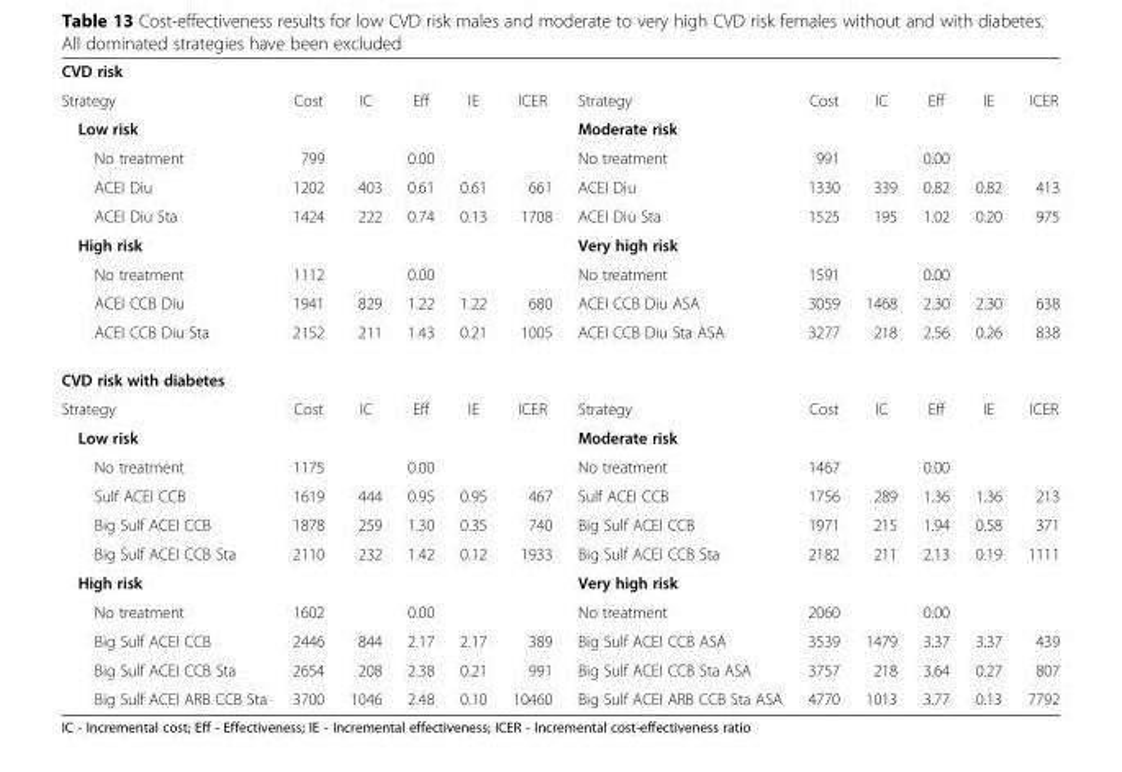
<table><tbody><tr><td colspan="12">CVD risk</td></tr><tr><td>Strategy</td><td>Cost</td><td>IC</td><td>Eff</td><td>IE</td><td>ICER</td><td>Strategy</td><td>Cost</td><td>IC</td><td>Eff</td><td>IE</td><td>ICER</td></tr><tr><td>Low risk</td><td></td><td></td><td></td><td></td><td></td><td>Moderate risk</td><td></td><td></td><td></td><td></td><td></td></tr><tr><td>No treatment</td><td>799</td><td></td><td>0.00</td><td></td><td></td><td>No treatment</td><td>991</td><td></td><td>0.00</td><td></td><td></td></tr><tr><td>ACEI Diu</td><td>1202</td><td>403</td><td>0.61</td><td>0.61</td><td>661</td><td>ACEI Diu</td><td>1330</td><td>339</td><td>0.82</td><td>0.82</td><td>413</td></tr><tr><td>ACEI Diu Sta</td><td>1424</td><td>222</td><td>0.74</td><td>0.13</td><td>1708</td><td>ACEI Diu Sta</td><td>1525</td><td>195</td><td>1.02</td><td>0.20</td><td>975</td></tr><tr><td>High risk</td><td></td><td></td><td></td><td></td><td></td><td>Very high risk</td><td></td><td></td><td></td><td></td><td></td></tr><tr><td>No treatment</td><td>1112</td><td></td><td>0.00</td><td></td><td></td><td>No treatment</td><td>1591</td><td></td><td>0.00</td><td></td><td></td></tr><tr><td>ACEI CCB Diu</td><td>1941</td><td>829</td><td>1.22</td><td>1.22</td><td>680</td><td>ACEI CCB Diu ASA</td><td>3059</td><td>1468</td><td>2.30</td><td>2.30</td><td>638</td></tr><tr><td>ACEI CCB Diu Sta</td><td>2152</td><td>211</td><td>1.43</td><td>0.21</td><td>1005</td><td>ACEI CCB Diu Sta ASA</td><td>3277</td><td>218</td><td>2.56</td><td>0.26</td><td>838</td></tr><tr><td colspan="12">CVD risk with diabetes</td></tr><tr><td>Strategy</td><td>Cost</td><td>IC</td><td>Eff</td><td>IE</td><td>ICER</td><td>Strategy</td><td>Cost</td><td>IC</td><td>Eff</td><td>IE</td><td>ICER</td></tr><tr><td>Low risk</td><td></td><td></td><td></td><td></td><td></td><td>Moderate risk</td><td></td><td></td><td></td><td></td><td></td></tr><tr><td>No treatment</td><td>1175</td><td></td><td>0.00</td><td></td><td></td><td>No treatment</td><td>1467</td><td></td><td>0.00</td><td></td><td></td></tr><tr><td>Sulf ACEI CCB</td><td>1619</td><td>444</td><td>0.95</td><td>0.95</td><td>467</td><td>Sulf ACEI CCB</td><td>1756</td><td>289</td><td>1.36</td><td>1.36</td><td>213</td></tr><tr><td>Big Sulf ACEI CCB</td><td>1878</td><td>259</td><td>1.30</td><td>0.35</td><td>740</td><td>Big Sulf ACEI CCB</td><td>1971</td><td>215</td><td>1.94</td><td>0.58</td><td>371</td></tr><tr><td>Big Sulf ACEI CCB Sta</td><td>2110</td><td>232</td><td>1.42</td><td>0.12</td><td>1933</td><td>Big Sulf ACEI CCB Sta</td><td>2182</td><td>211</td><td>2.13</td><td>0.19</td><td>1111</td></tr><tr><td>High risk</td><td></td><td></td><td></td><td></td><td></td><td>Very high risk</td><td></td><td></td><td></td><td></td><td></td></tr><tr><td>No treatment</td><td>1602</td><td></td><td>0.00</td><td></td><td></td><td>No treatment</td><td>2060</td><td></td><td>0.00</td><td></td><td></td></tr><tr><td>Big Sulf ACEI CCB</td><td>2446</td><td>844</td><td>2.17</td><td>2.17</td><td>389</td><td>Big Sulf ACEI CCB ASA</td><td>3539</td><td>1479</td><td>3.37</td><td>3.37</td><td>439</td></tr><tr><td>Big Sulf ACEI CCB Sta</td><td>2654</td><td>208</td><td>2.38</td><td>0.21</td><td>991</td><td>Big Sulf ACEI CCB Sta ASA</td><td>3757</td><td>218</td><td>3.64</td><td>0.27</td><td>807</td></tr><tr><td>Big Sulf ACEI ARB CCB Sta</td><td>3700</td><td>1046</td><td>2.48</td><td>0.10</td><td>10460</td><td>Big Sulf ACEI ARB CCB Sta ASA</td><td>4770</td><td>1013</td><td>3.77</td><td>0.13</td><td>7792</td></tr></tbody></table>